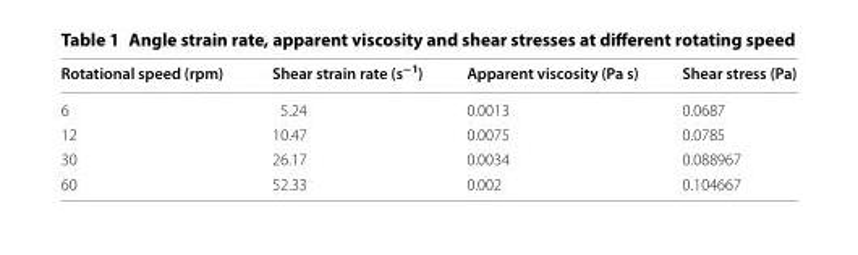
<table><thead><tr><td>Rotational speed (rpm)</td><td>Shear strain rate (s<sup>−1</sup>)</td><td>Apparent viscosity (Pa s)</td><td>Shear stress (Pa)</td></tr></thead><tbody><tr><td>6</td><td>5.24</td><td>0.0013</td><td>0.0687</td></tr><tr><td>12</td><td>10.47</td><td>0.0075</td><td>0.0785</td></tr><tr><td>30</td><td>26.17</td><td>0.0034</td><td>0.088967</td></tr><tr><td>60</td><td>52.33</td><td>0.002</td><td>0.104667</td></tr></tbody></table>